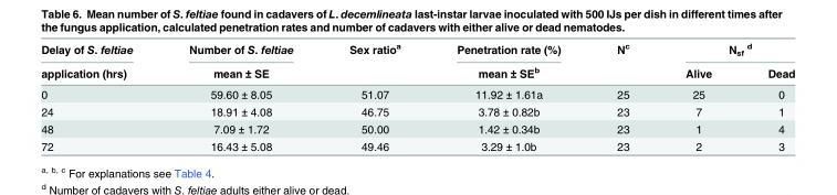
<table><thead><tr><td rowspan="2">Delay of S. feltiae application (hrs)</td><td rowspan="2">Number of S. feltiae mean ± SE</td><td rowspan="2">Sex ratio<sup>a</sup></td><td rowspan="2">Penetration rate (%) mean ± SE<sup>b</sup></td><td rowspan="2">N<sup>c</sup></td><td colspan="2">N<sub>sf</sub> <sup>d</sup></td></tr><tr><td>Alive</td><td>Dead</td></tr></thead><tbody><tr><td>0</td><td>59.60 ± 8.05</td><td>51.07</td><td>11.92 ± 1.61a</td><td>25</td><td>25</td><td>0</td></tr><tr><td>24</td><td>18.91 ± 4.08</td><td>46.75</td><td>3.78 ± 0.82b</td><td>23</td><td>7</td><td>1</td></tr><tr><td>48</td><td>7.09 ± 1.72</td><td>50.00</td><td>1.42 ± 0.34b</td><td>23</td><td>1</td><td>4</td></tr><tr><td>72</td><td>16.43 ± 5.08</td><td>49.46</td><td>3.29 ± 1.0b</td><td>23</td><td>2</td><td>3</td></tr></tbody></table>